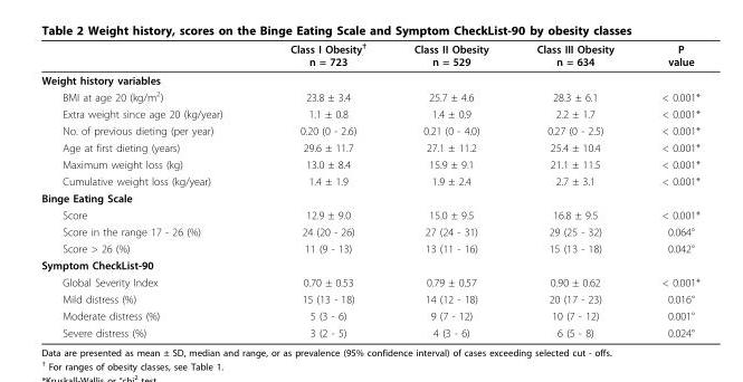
<table><thead><tr><td></td><td>Class I Obesity<sup>†</sup> n = 723</td><td>Class II Obesity n = 529</td><td>Class III Obesity n = 634</td><td>P value</td></tr></thead><tbody><tr><td colspan="5">Weight history variables</td></tr><tr><td>BMI at age 20 (kg/m<sup>2</sup>)</td><td>23.8 ± 3.4</td><td>25.7 ± 4.6</td><td>28.3 ± 6.1</td><td>&lt; 0.001*</td></tr><tr><td>Extra weight since age 20 (kg/year)</td><td>1.1 ± 0.8</td><td>1.4 ± 0.9</td><td>2.2 ± 1.7</td><td>&lt; 0.001*</td></tr><tr><td>No. of previous dieting (per year)</td><td>0.20 (0 - 2.6)</td><td>0.21 (0 - 4.0)</td><td>0.27 (0 - 2.5)</td><td>&lt; 0.001*</td></tr><tr><td>Age at first dieting (years)</td><td>29.6 ± 11.7</td><td>27.1 ± 11.2</td><td>25.4 ± 10.4</td><td>&lt; 0.001*</td></tr><tr><td>Maximum weight loss (kg)</td><td>13.0 ± 8.4</td><td>15.9 ± 9.1</td><td>21.1 ± 11.5</td><td>&lt; 0.001*</td></tr><tr><td>Cumulative weight loss (kg/year)</td><td>1.4 ± 1.9</td><td>1.9 ± 2.4</td><td>2.7 ± 3.1</td><td>&lt; 0.001*</td></tr><tr><td colspan="5">Binge Eating Scale</td></tr><tr><td>Score</td><td>12.9 ± 9.0</td><td>15.0 ± 9.5</td><td>16.8 ± 9.5</td><td>&lt; 0.001*</td></tr><tr><td>Score in the range 17 - 26 (%)</td><td>24 (20 - 26)</td><td>27 (24 - 31)</td><td>29 (25 - 32)</td><td>0.064°</td></tr><tr><td>Score &gt; 26 (%)</td><td>11 (9 - 13)</td><td>13 (11 - 16)</td><td>15 (13 - 18)</td><td>0.042°</td></tr><tr><td colspan="5">Symptom CheckList-90</td></tr><tr><td>Global Severity Index</td><td>0.70 ± 0.53</td><td>0.79 ± 0.57</td><td>0.90 ± 0.62</td><td>&lt; 0.001*</td></tr><tr><td>Mild distress (%)</td><td>15 (13 - 18)</td><td>14 (12 - 18)</td><td>20 (17 - 23)</td><td>0.016°</td></tr><tr><td>Moderate distress (%)</td><td>5 (3 - 6)</td><td>9 (7 - 12)</td><td>10 (7 - 12)</td><td>0.001°</td></tr><tr><td>Severe distress (%)</td><td>3 (2 - 5)</td><td>4 (3 - 6)</td><td>6 (5 - 8)</td><td>0.024°</td></tr></tbody></table>